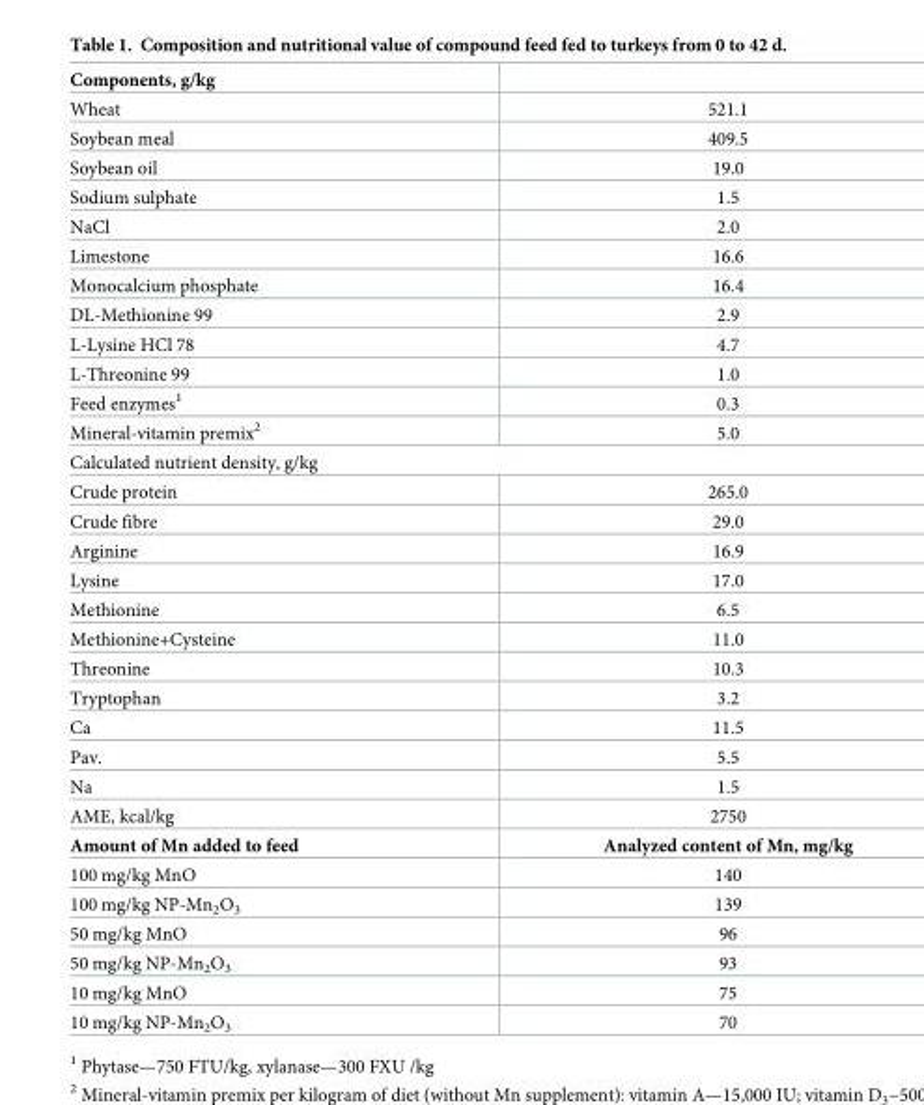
<table><tbody><tr><td colspan="2">Components, g/kg</td></tr><tr><td>Wheat</td><td>521.1</td></tr><tr><td>Soybean meal</td><td>409.5</td></tr><tr><td>Soybean oil</td><td>19.0</td></tr><tr><td>Sodium sulphate</td><td>1.5</td></tr><tr><td>NaCl</td><td>2.0</td></tr><tr><td>Limestone</td><td>16.6</td></tr><tr><td>Monocalcium phosphate</td><td>16.4</td></tr><tr><td>DL-Methionine 99</td><td>2.9</td></tr><tr><td>L-Lysine HCl 78</td><td>4.7</td></tr><tr><td>L-Threonine 99</td><td>1.0</td></tr><tr><td>Feed enzymes<sup>1</sup></td><td>0.3</td></tr><tr><td>Mineral-vitamin premix<sup>2</sup></td><td>5.0</td></tr><tr><td colspan="2">Calculated nutrient density, g/kg</td></tr><tr><td>Crude protein</td><td>265.0</td></tr><tr><td>Crude fibre</td><td>29.0</td></tr><tr><td>Arginine</td><td>16.9</td></tr><tr><td>Lysine</td><td>17.0</td></tr><tr><td>Methionine</td><td>6.5</td></tr><tr><td>Methionine+Cysteine</td><td>11.0</td></tr><tr><td>Threonine</td><td>10.3</td></tr><tr><td>Tryptophan</td><td>3.2</td></tr><tr><td>Ca</td><td>11.5</td></tr><tr><td>Pav.</td><td>5.5</td></tr><tr><td>Na</td><td>1.5</td></tr><tr><td>AME, kcal/kg</td><td>2750</td></tr><tr><td>Amount of Mn added to feed</td><td>Analyzed content of Mn, mg/kg</td></tr><tr><td>100 mg/kg MnO</td><td>140</td></tr><tr><td>100 mg/kg NP-Mn<sub>2</sub>O<sub>3</sub></td><td>139</td></tr><tr><td>50 mg/kg MnO</td><td>96</td></tr><tr><td>50 mg/kg NP-Mn<sub>2</sub>O<sub>3</sub></td><td>93</td></tr><tr><td>10 mg/kg MnO</td><td>75</td></tr><tr><td>10 mg/kg NP-Mn<sub>2</sub>O<sub>3</sub></td><td>70</td></tr></tbody></table>